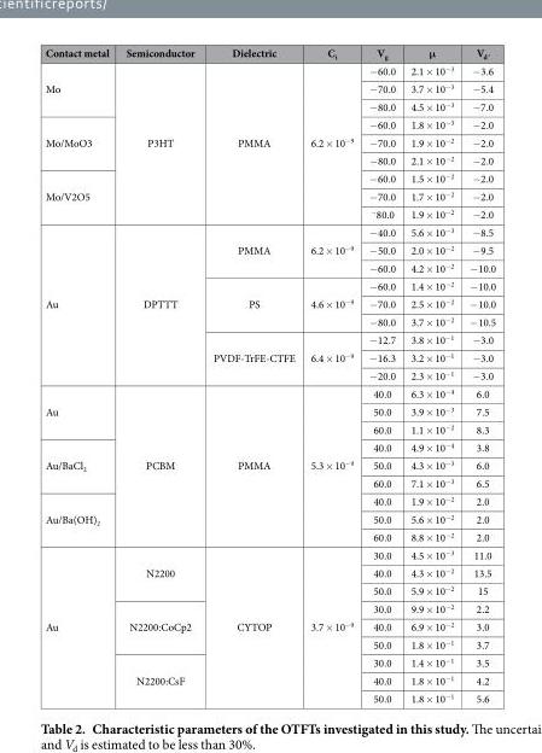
<table><thead><tr><td>Contact metal</td><td>Semiconductor</td><td>Dielectric</td><td>C<sub>i</sub></td><td>V<sub>g</sub></td><td>μ</td><td>V<sub>d′</sub></td></tr></thead><tbody><tr><td rowspan="3">Mo</td><td rowspan="9">P3HT</td><td rowspan="9">PMMA</td><td rowspan="9">6.2 × 10<sup>−9</sup></td><td>− 60.0</td><td>2.1 × 10<sup>−3</sup></td><td>− 3.6</td></tr><tr><td>− 70.0</td><td>3.7 × 10<sup>−3</sup></td><td>− 5.4</td></tr><tr><td>− 80.0</td><td>4.5 × 10<sup>−3</sup></td><td>− 7.0</td></tr><tr><td rowspan="3">Mo/MoO3</td><td>− 60.0</td><td>1.8 × 10<sup>−3</sup></td><td>− 2.0</td></tr><tr><td>− 70.0</td><td>1.9 × 10<sup>−2</sup></td><td>− 2.0</td></tr><tr><td>− 80.0</td><td>2.1 × 10<sup>−2</sup></td><td>− 2.0</td></tr><tr><td rowspan="3">Mo/V2O5</td><td>− 60.0</td><td>1.5 × 10<sup>−2</sup></td><td>− 2.0</td></tr><tr><td>− 70.0</td><td>1.7 × 10<sup>−2</sup></td><td>− 2.0</td></tr><tr><td><sup>−</sup>80.0</td><td>1.9 × 10<sup>−2</sup></td><td>− 2.0</td></tr><tr><td rowspan="9">Au</td><td rowspan="9">DPTTT</td><td rowspan="3">PMMA</td><td rowspan="3">6.2 × 10<sup>−9</sup></td><td>− 40.0</td><td>5.6 × 10<sup>−3</sup></td><td>− 8.5</td></tr><tr><td>− 50.0</td><td>2.0 × 10<sup>−2</sup></td><td>− 9.5</td></tr><tr><td>− 60.0</td><td>4.2 × 10<sup>−2</sup></td><td>− 10.0</td></tr><tr><td rowspan="3">PS</td><td rowspan="3">4.6 × 10<sup>−9</sup></td><td>− 60.0</td><td>1.4 × 10<sup>−2</sup></td><td>− 10.0</td></tr><tr><td>− 70.0</td><td>2.5 × 10<sup>−2</sup></td><td>− 10.0</td></tr><tr><td>− 80.0</td><td>3.7 × 10<sup>−2</sup></td><td>− 10.5</td></tr><tr><td rowspan="3">PVDF-TrFE-CTFE</td><td rowspan="3">6.4 × 10<sup>−9</sup></td><td>− 12.7</td><td>3.8 × 10<sup>−1</sup></td><td>− 3.0</td></tr><tr><td>− 16.3</td><td>3.2 × 10<sup>−1</sup></td><td>− 3.0</td></tr><tr><td>− 20.0</td><td>2.3 × 10<sup>−1</sup></td><td>− 3.0</td></tr><tr><td rowspan="3">Au</td><td rowspan="9">PCBM</td><td rowspan="9">PMMA</td><td rowspan="9">5.3 × 10<sup>−9</sup></td><td>40.0</td><td>6.3 × 10<sup>−4</sup></td><td>6.0</td></tr><tr><td>50.0</td><td>3.9 × 10<sup>−3</sup></td><td>7.5</td></tr><tr><td>60.0</td><td>1.1 × 10<sup>−2</sup></td><td>8.3</td></tr><tr><td rowspan="3">Au/BaCl<sub>2</sub></td><td>40.0</td><td>4.9 × 10<sup>−4</sup></td><td>3.8</td></tr><tr><td>50.0</td><td>4.3 × 10<sup>−3</sup></td><td>6.0</td></tr><tr><td>60.0</td><td>7.1 × 10<sup>−3</sup></td><td>6.5</td></tr><tr><td rowspan="3">Au/Ba(OH)<sub>2</sub></td><td>40.0</td><td>1.9 × 10<sup>−2</sup></td><td>2.0</td></tr><tr><td>50.0</td><td>5.6 × 10<sup>−2</sup></td><td>2.0</td></tr><tr><td>60.0</td><td>8.8 × 10<sup>−2</sup></td><td>2.0</td></tr><tr><td rowspan="9">Au</td><td rowspan="3">N2200</td><td rowspan="9">CYTOP</td><td rowspan="9">3.7 × 10<sup>−9</sup></td><td>30.0</td><td>4.5 × 10<sup>−3</sup></td><td>11.0</td></tr><tr><td>40.0</td><td>4.3 × 10<sup>−2</sup></td><td>13.5</td></tr><tr><td>50.0</td><td>5.9 × 10<sup>−2</sup></td><td>15</td></tr><tr><td rowspan="3">N2200:CoCp2</td><td>30.0</td><td>9.9 × 10<sup>−2</sup></td><td>2.2</td></tr><tr><td>40.0</td><td>6.9 × 10<sup>−2</sup></td><td>3.0</td></tr><tr><td>50.0</td><td>1.8 × 10<sup>−1</sup></td><td>3.7</td></tr><tr><td rowspan="3">N2200:CsF</td><td>30.0</td><td>1.4 × 10<sup>−1</sup></td><td>3.5</td></tr><tr><td>40.0</td><td>1.8 × 10<sup>−1</sup></td><td>4.2</td></tr><tr><td>50.0</td><td>1.8 × 10<sup>−1</sup></td><td>5.6</td></tr></tbody></table>